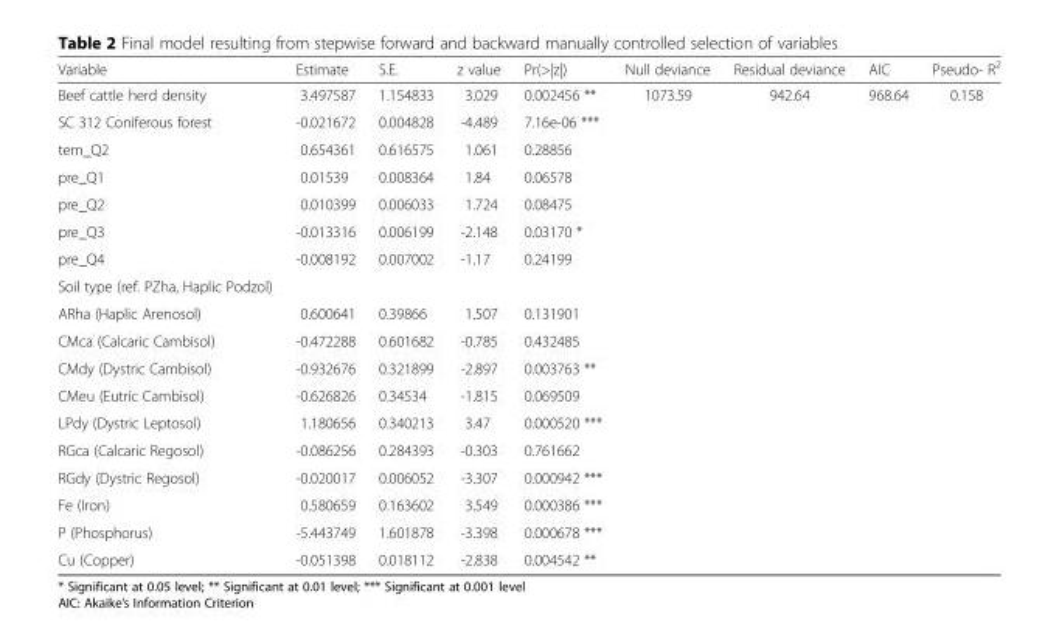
<table><thead><tr><td>Variable</td><td>Estimate</td><td>S.E.</td><td>z value</td><td>Pr(&gt;|z|)</td><td>Null deviance</td><td>Residual deviance</td><td>AIC</td><td>Pseudo- R<sup>2</sup></td></tr></thead><tbody><tr><td>Beef cattle herd density</td><td>3.497587</td><td>1.154833</td><td>3.029</td><td>0.002456 **</td><td>1073.59</td><td>942.64</td><td>968.64</td><td>0.158</td></tr><tr><td>SC 312 Coniferous forest</td><td>-0.021672</td><td>0.004828</td><td>-4.489</td><td>7.16e-06 ***</td><td></td><td></td><td></td><td></td></tr><tr><td>tem_Q2</td><td>0.654361</td><td>0.616575</td><td>1.061</td><td>0.28856</td><td></td><td></td><td></td><td></td></tr><tr><td>pre_Q1</td><td>0.01539</td><td>0.008364</td><td>1.84</td><td>0.06578</td><td></td><td></td><td></td><td></td></tr><tr><td>pre_Q2</td><td>0.010399</td><td>0.006033</td><td>1.724</td><td>0.08475</td><td></td><td></td><td></td><td></td></tr><tr><td>pre_Q3</td><td>-0.013316</td><td>0.006199</td><td>-2.148</td><td>0.03170 *</td><td></td><td></td><td></td><td></td></tr><tr><td>pre_Q4</td><td>-0.008192</td><td>0.007002</td><td>-1.17</td><td>0.24199</td><td></td><td></td><td></td><td></td></tr><tr><td colspan="9">Soil type (ref. PZha, Haplic Podzol)</td></tr><tr><td>ARha (Haplic Arenosol)</td><td>0.600641</td><td>0.39866</td><td>1.507</td><td>0.131901</td><td></td><td></td><td></td><td></td></tr><tr><td>CMca (Calcaric Cambisol)</td><td>-0.472288</td><td>0.601682</td><td>-0.785</td><td>0.432485</td><td></td><td></td><td></td><td></td></tr><tr><td>CMdy (Dystric Cambisol)</td><td>-0.932676</td><td>0.321899</td><td>-2.897</td><td>0.003763 **</td><td></td><td></td><td></td><td></td></tr><tr><td>CMeu (Eutric Cambisol)</td><td>-0.626826</td><td>0.34534</td><td>-1.815</td><td>0.069509</td><td></td><td></td><td></td><td></td></tr><tr><td>LPdy (Dystric Leptosol)</td><td>1.180656</td><td>0.340213</td><td>3.47</td><td>0.000520 ***</td><td></td><td></td><td></td><td></td></tr><tr><td>RGca (Calcaric Regosol)</td><td>-0.086256</td><td>0.284393</td><td>-0.303</td><td>0.761662</td><td></td><td></td><td></td><td></td></tr><tr><td>RGdy (Dystric Regosol)</td><td>-0.020017</td><td>0.006052</td><td>-3.307</td><td>0.000942 ***</td><td></td><td></td><td></td><td></td></tr><tr><td>Fe (Iron)</td><td>0.580659</td><td>0.163602</td><td>3.549</td><td>0.000386 ***</td><td></td><td></td><td></td><td></td></tr><tr><td>P (Phosphorus)</td><td>-5.443749</td><td>1.601878</td><td>-3.398</td><td>0.000678 ***</td><td></td><td></td><td></td><td></td></tr><tr><td>Cu (Copper)</td><td>-0.051398</td><td>0.018112</td><td>-2.838</td><td>0.004542 **</td><td></td><td></td><td></td><td></td></tr></tbody></table>